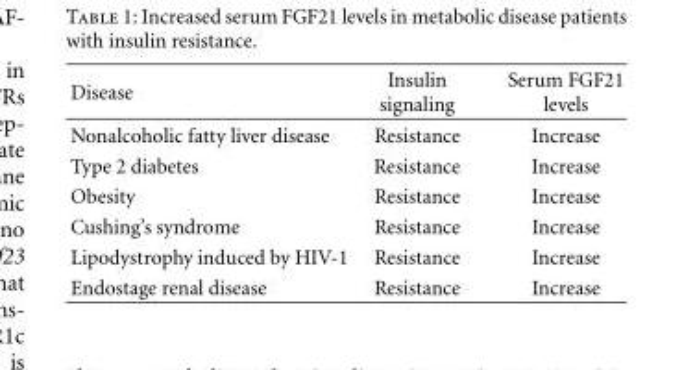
<table><thead><tr><td>Disease</td><td>Insulin signaling</td><td>Serum FGF21 levels</td></tr></thead><tbody><tr><td>Nonalcoholic fatty liver disease</td><td>Resistance</td><td>Increase</td></tr><tr><td>Type 2 diabetes</td><td>Resistance</td><td>Increase</td></tr><tr><td>Obesity</td><td>Resistance</td><td>Increase</td></tr><tr><td>Cushing’s syndrome</td><td>Resistance</td><td>Increase</td></tr><tr><td>Lipodystrophy induced by HIV-1</td><td>Resistance</td><td>Increase</td></tr><tr><td>Endostage renal disease</td><td>Resistance</td><td>Increase</td></tr></tbody></table>